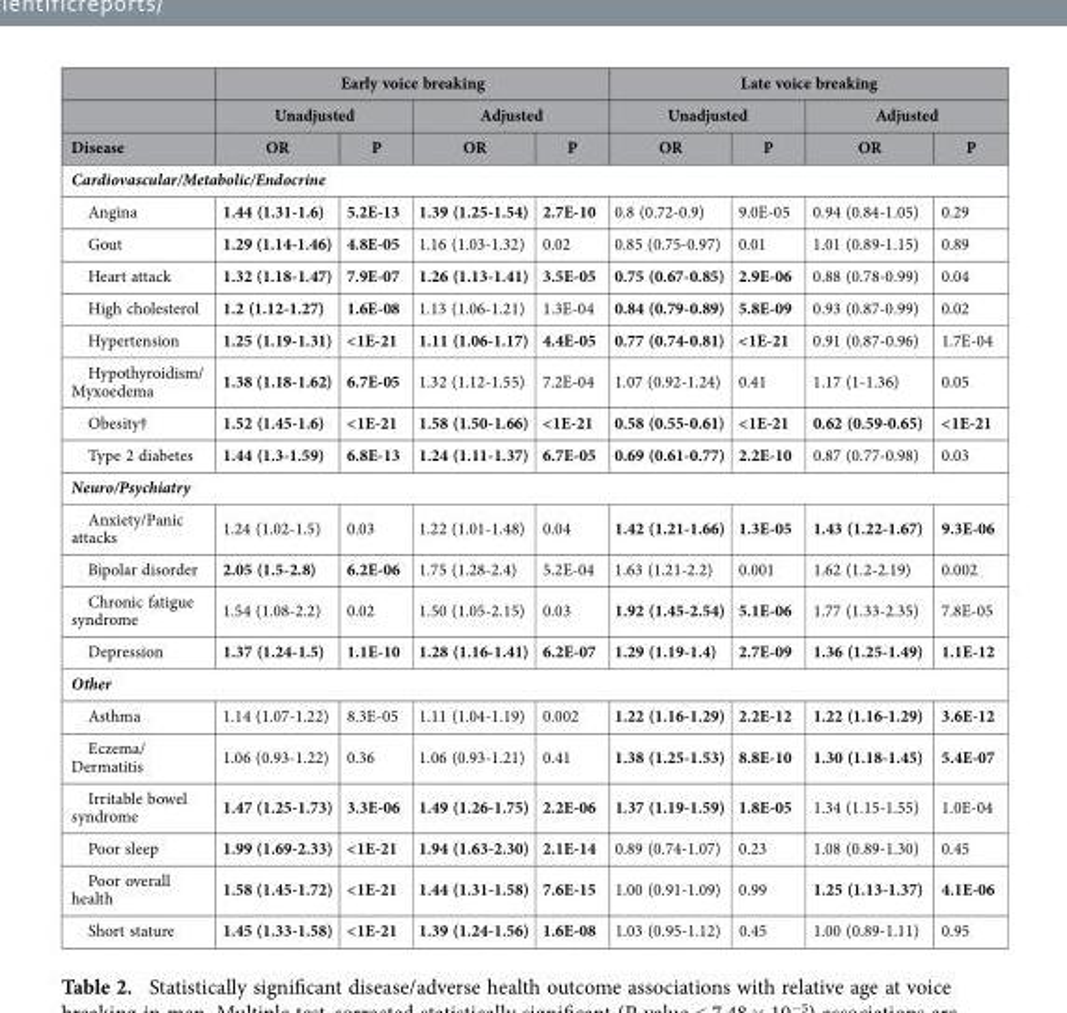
<table><thead><tr><td rowspan="3">Disease</td><td colspan="4">Early voice breaking</td><td colspan="4">Late voice breaking</td></tr><tr><td colspan="2">Unadjusted</td><td colspan="2">Adjusted</td><td colspan="2">Unadjusted</td><td colspan="2">Adjusted</td></tr><tr><td>OR</td><td>P</td><td>OR</td><td>P</td><td>OR</td><td>P</td><td>OR</td><td>P</td></tr></thead><tbody><tr><td colspan="9">Cardiovascular/Metabolic/Endocrine</td></tr><tr><td>Angina</td><td>1.44 (1.31-1.6)</td><td>5.2E-13</td><td>1.39 (1.25-1.54)</td><td>2.7E-10</td><td>0.8 (0.72-0.9)</td><td>9.0E-05</td><td>0.94 (0.84-1.05)</td><td>0.29</td></tr><tr><td>Gout</td><td>1.29 (1.14-1.46)</td><td>4.8E-05</td><td>1.16 (1.03-1.32)</td><td>0.02</td><td>0.85 (0.75-0.97)</td><td>0.01</td><td>1.01 (0.89-1.15)</td><td>0.89</td></tr><tr><td>Heart attack</td><td>1.32 (1.18-1.47)</td><td>7.9E-07</td><td>1.26 (1.13-1.41)</td><td>3.5E-05</td><td>0.75 (0.67-0.85)</td><td>2.9E-06</td><td>0.88 (0.78-0.99)</td><td>0.04</td></tr><tr><td>High cholesterol</td><td>1.2 (1.12-1.27)</td><td>1.6E-08</td><td>1.13 (1.06-1.21)</td><td>1.3E-04</td><td>0.84 (0.79-0.89)</td><td>5.8E-09</td><td>0.93 (0.87-0.99)</td><td>0.02</td></tr><tr><td>Hypertension</td><td>1.25 (1.19-1.31)</td><td>&lt; 1E-21</td><td>1.11 (1.06-1.17)</td><td>4.4E-05</td><td>0.77 (0.74-0.81)</td><td>&lt; 1E-21</td><td>0.91 (0.87-0.96)</td><td>1.7E-04</td></tr><tr><td>Hypothyroidism/ Myxoedema</td><td>1.38 (1.18-1.62)</td><td>6.7E-05</td><td>1.32 (1.12-1.55)</td><td>7.2E-04</td><td>1.07 (0.92-1.24)</td><td>0.41</td><td>1.17 (1-1.36)</td><td>0.05</td></tr><tr><td>Obesity†</td><td>1.52 (1.45-1.6)</td><td>&lt; 1E-21</td><td>1.58 (1.50-1.66)</td><td>&lt; 1E-21</td><td>0.58 (0.55-0.61)</td><td>&lt; 1E-21</td><td>0.62 (0.59-0.65)</td><td>&lt; 1E-21</td></tr><tr><td>Type 2 diabetes</td><td>1.44 (1.3-1.59)</td><td>6.8E-13</td><td>1.24 (1.11-1.37)</td><td>6.7E-05</td><td>0.69 (0.61-0.77)</td><td>2.2E-10</td><td>0.87 (0.77-0.98)</td><td>0.03</td></tr><tr><td colspan="9">Neuro/Psychiatry</td></tr><tr><td>Anxiety/Panic attacks</td><td>1.24 (1.02-1.5)</td><td>0.03</td><td>1.22 (1.01-1.48)</td><td>0.04</td><td>1.42 (1.21-1.66)</td><td>1.3E-05</td><td>1.43 (1.22-1.67)</td><td>9.3E-06</td></tr><tr><td>Bipolar disorder</td><td>2.05 (1.5-2.8)</td><td>6.2E-06</td><td>1.75 (1.28-2.4)</td><td>5.2E-04</td><td>1.63 (1.21-2.2)</td><td>0.001</td><td>1.62 (1.2-2.19)</td><td>0.002</td></tr><tr><td>Chronic fatigue syndrome</td><td>1.54 (1.08-2.2)</td><td>0.02</td><td>1.50 (1.05-2.15)</td><td>0.03</td><td>1.92 (1.45-2.54)</td><td>5.1E-06</td><td>1.77 (1.33-2.35)</td><td>7.8E-05</td></tr><tr><td>Depression</td><td>1.37 (1.24-1.5)</td><td>1.1E-10</td><td>1.28 (1.16-1.41)</td><td>6.2E-07</td><td>1.29 (1.19-1.4)</td><td>2.7E-09</td><td>1.36 (1.25-1.49)</td><td>1.1E-12</td></tr><tr><td colspan="9">Other</td></tr><tr><td>Asthma</td><td>1.14 (1.07-1.22)</td><td>8.3E-05</td><td>1.11 (1.04-1.19)</td><td>0.002</td><td>1.22 (1.16-1.29)</td><td>2.2E-12</td><td>1.22 (1.16-1.29)</td><td>3.6E-12</td></tr><tr><td>Eczema/ Dermatitis</td><td>1.06 (0.93-1.22)</td><td>0.36</td><td>1.06 (0.93-1.21)</td><td>0.41</td><td>1.38 (1.25-1.53)</td><td>8.8E-10</td><td>1.30 (1.18-1.45)</td><td>5.4E-07</td></tr><tr><td>Irritable bowel syndrome</td><td>1.47 (1.25-1.73)</td><td>3.3E-06</td><td>1.49 (1.26-1.75)</td><td>2.2E-06</td><td>1.37 (1.19-1.59)</td><td>1.8E-05</td><td>1.34 (1.15-1.55)</td><td>1.0E-04</td></tr><tr><td>Poor sleep</td><td>1.99 (1.69-2.33)</td><td>&lt; 1E-21</td><td>1.94 (1.63-2.30)</td><td>2.1E-14</td><td>0.89 (0.74-1.07)</td><td>0.23</td><td>1.08 (0.89-1.30)</td><td>0.45</td></tr><tr><td>Poor overall health</td><td>1.58 (1.45-1.72)</td><td>&lt; 1E-21</td><td>1.44 (1.31-1.58)</td><td>7.6E-15</td><td>1.00 (0.91-1.09)</td><td>0.99</td><td>1.25 (1.13-1.37)</td><td>4.1E-06</td></tr><tr><td>Short stature</td><td>1.45 (1.33-1.58)</td><td>&lt; 1E-21</td><td>1.39 (1.24-1.56)</td><td>1.6E-08</td><td>1.03 (0.95-1.12)</td><td>0.45</td><td>1.00 (0.89-1.11)</td><td>0.95</td></tr></tbody></table>